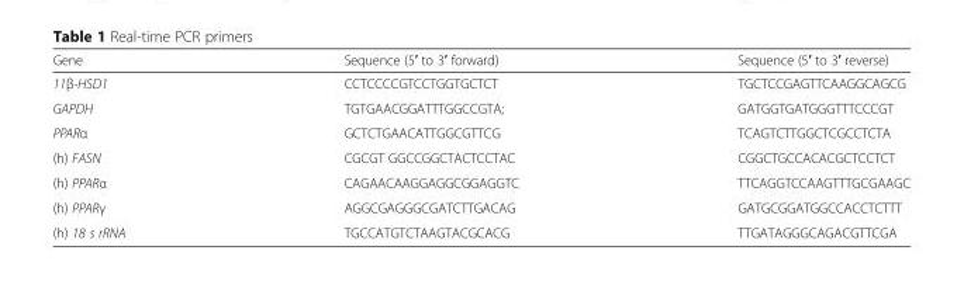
<table><thead><tr><td>Gene</td><td>Sequence (5′ to 3′ forward)</td><td>Sequence (5′ to 3′ reverse)</td></tr></thead><tbody><tr><td>11β-HSD1</td><td>CCTCCCCGTCCTGGTGCTCT</td><td>TGCTCCGAGTTCAAGGCAGCG</td></tr><tr><td>GAPDH</td><td>TGTGAACGGATTTGGCCGTA;</td><td>GATGGTGATGGGTTTCCCGT</td></tr><tr><td>PPARα</td><td>GCTCTGAACATTGGCGTTCG</td><td>TCAGTCTTGGCTCGCCTCTA</td></tr><tr><td>(h) FASN</td><td>CGCGT GGCCGGCTACTCCTAC</td><td>CGGCTGCCACACGCTCCTCT</td></tr><tr><td>(h) PPARα</td><td>CAGAACAAGGAGGCGGAGGTC</td><td>TTCAGGTCCAAGTTTGCGAAGC</td></tr><tr><td>(h) PPARγ</td><td>AGGCGAGGGCGATCTTGACAG</td><td>GATGCGGATGGCCACCTCTTT</td></tr><tr><td>(h) 18 s rRNA</td><td>TGCCATGTCTAAGTACGCACG</td><td>TTGATAGGGCAGACGTTCGA</td></tr></tbody></table>